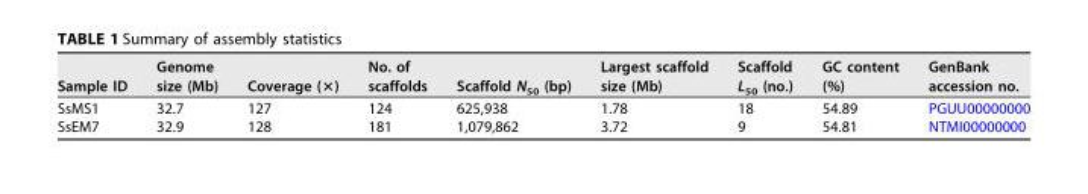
<table><thead><tr><td>Sample ID</td><td>Genome size (Mb)</td><td>Coverage (×)</td><td>No. of scaffolds</td><td>Scaffold N<sub>50</sub> (bp)</td><td>Largest scaffold size (Mb)</td><td>Scaffold L<sub>50</sub> (no.)</td><td>GC content (%)</td><td>GenBank accession no.</td></tr></thead><tbody><tr><td>SsMS1</td><td>32.7</td><td>127</td><td>124</td><td>625,938</td><td>1.78</td><td>18</td><td>54.89</td><td>PGUU00000000</td></tr><tr><td>SsEM7</td><td>32.9</td><td>128</td><td>181</td><td>1,079,862</td><td>3.72</td><td>9</td><td>54.81</td><td>NTMI00000000</td></tr></tbody></table>